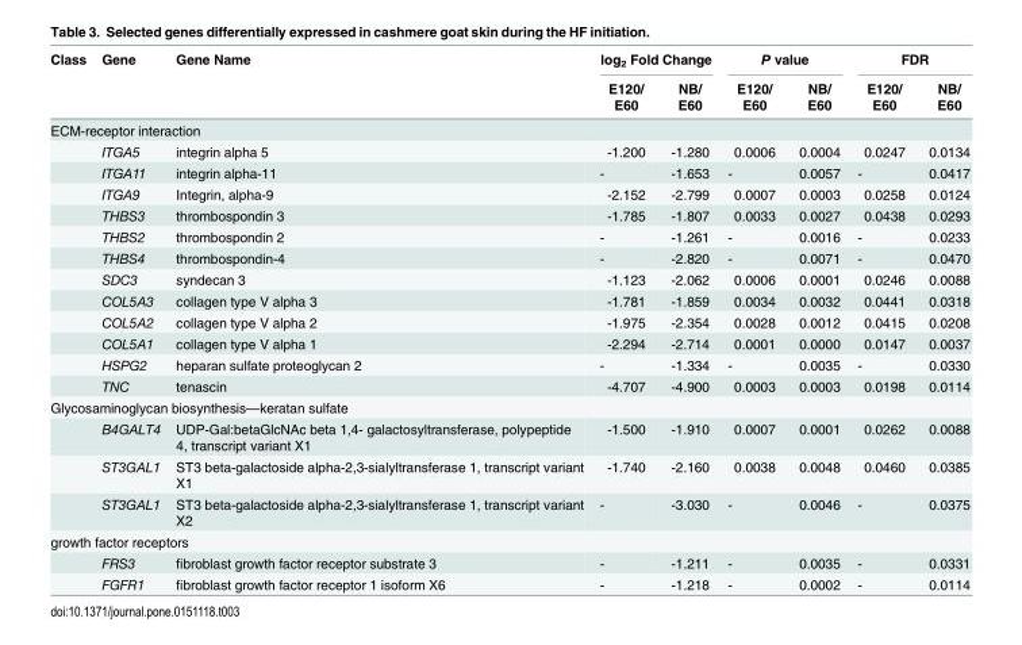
<table><thead><tr><td rowspan="2">Class</td><td rowspan="2">Gene</td><td rowspan="2">Gene Name</td><td colspan="2">log<sub>2</sub> Fold Change</td><td colspan="2">P value</td><td colspan="2">FDR</td></tr><tr><td>E120/ E60</td><td>NB/ E60</td><td>E120/ E60</td><td>NB/ E60</td><td>E120/ E60</td><td>NB/ E60</td></tr></thead><tbody><tr><td colspan="9">ECM-receptor interaction</td></tr><tr><td></td><td>ITGA5</td><td>integrin alpha 5</td><td>-1.200</td><td>-1.280</td><td>0.0006</td><td>0.0004</td><td>0.0247</td><td>0.0134</td></tr><tr><td></td><td>ITGA11</td><td>integrin alpha-11</td><td>-</td><td>-1.653</td><td>-</td><td>0.0057</td><td>-</td><td>0.0417</td></tr><tr><td></td><td>ITGA9</td><td>Integrin, alpha-9</td><td>-2.152</td><td>-2.799</td><td>0.0007</td><td>0.0003</td><td>0.0258</td><td>0.0124</td></tr><tr><td></td><td>THBS3</td><td>thrombospondin 3</td><td>-1.785</td><td>-1.807</td><td>0.0033</td><td>0.0027</td><td>0.0438</td><td>0.0293</td></tr><tr><td></td><td>THBS2</td><td>thrombospondin 2</td><td>-</td><td>-1.261</td><td>-</td><td>0.0016</td><td>-</td><td>0.0233</td></tr><tr><td></td><td>THBS4</td><td>thrombospondin-4</td><td>-</td><td>-2.820</td><td>-</td><td>0.0071</td><td>-</td><td>0.0470</td></tr><tr><td></td><td>SDC3</td><td>syndecan 3</td><td>-1.123</td><td>-2.062</td><td>0.0006</td><td>0.0001</td><td>0.0246</td><td>0.0088</td></tr><tr><td></td><td>COL5A3</td><td>collagen type V alpha 3</td><td>-1.781</td><td>-1.859</td><td>0.0034</td><td>0.0032</td><td>0.0441</td><td>0.0318</td></tr><tr><td></td><td>COL5A2</td><td>collagen type V alpha 2</td><td>-1.975</td><td>-2.354</td><td>0.0028</td><td>0.0012</td><td>0.0415</td><td>0.0208</td></tr><tr><td></td><td>COL5A1</td><td>collagen type V alpha 1</td><td>-2.294</td><td>-2.714</td><td>0.0001</td><td>0.0000</td><td>0.0147</td><td>0.0037</td></tr><tr><td></td><td>HSPG2</td><td>heparan sulfate proteoglycan 2</td><td>-</td><td>-1.334</td><td>-</td><td>0.0035</td><td>-</td><td>0.0330</td></tr><tr><td></td><td>TNC</td><td>tenascin</td><td>-4.707</td><td>-4.900</td><td>0.0003</td><td>0.0003</td><td>0.0198</td><td>0.0114</td></tr><tr><td colspan="9">Glycosaminoglycan biosynthesis—keratan sulfate</td></tr><tr><td></td><td>B4GALT4</td><td>UDP-Gal:betaGlcNAc beta 1,4- galactosyltransferase, polypeptide 4, transcript variant X1</td><td>-1.500</td><td>-1.910</td><td>0.0007</td><td>0.0001</td><td>0.0262</td><td>0.0088</td></tr><tr><td></td><td>ST3GAL1</td><td>ST3 beta-galactoside alpha-2,3-sialyltransferase 1, transcript variant X1</td><td>-1.740</td><td>-2.160</td><td>0.0038</td><td>0.0048</td><td>0.0460</td><td>0.0385</td></tr><tr><td></td><td>ST3GAL1</td><td>ST3 beta-galactoside alpha-2,3-sialyltransferase 1, transcript variant X2</td><td>-</td><td>-3.030</td><td>-</td><td>0.0046</td><td>-</td><td>0.0375</td></tr><tr><td colspan="9">growth factor receptors</td></tr><tr><td></td><td>FRS3</td><td>fibroblast growth factor receptor substrate 3</td><td>-</td><td>-1.211</td><td>-</td><td>0.0035</td><td>-</td><td>0.0331</td></tr><tr><td></td><td>FGFR1</td><td>fibroblast growth factor receptor 1 isoform X6</td><td>-</td><td>-1.218</td><td>-</td><td>0.0002</td><td>-</td><td>0.0114</td></tr></tbody></table>